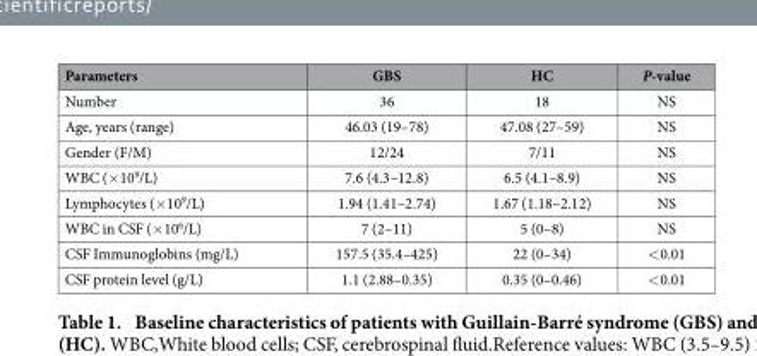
<table><thead><tr><td>Parameters</td><td>GBS</td><td>HC</td><td>P-value</td></tr></thead><tbody><tr><td>Number</td><td>36</td><td>18</td><td>NS</td></tr><tr><td>Age, years (range)</td><td>46.03 (19–78)</td><td>47.08 (27–59)</td><td>NS</td></tr><tr><td>Gender (F/M)</td><td>12/24</td><td>7/11</td><td>NS</td></tr><tr><td>WBC (×10<sup>9</sup>/L)</td><td>7.6 (4.3–12.8)</td><td>6.5 (4.1–8.9)</td><td>NS</td></tr><tr><td>Lymphocytes (×10<sup>9</sup>/L)</td><td>1.94 (1.41–2.74)</td><td>1.67 (1.18–2.12)</td><td>NS</td></tr><tr><td>WBC in CSF (×10<sup>6</sup>/L)</td><td>7 (2–11)</td><td>5 (0–8)</td><td>NS</td></tr><tr><td>CSF Immunoglobins (mg/L)</td><td>157.5 (35.4–425)</td><td>22 (0–34)</td><td>&lt; 0.01</td></tr><tr><td>CSF protein level (g/L)</td><td>1.1 (2.88–0.35)</td><td>0.35 (0–0.46)</td><td>&lt; 0.01</td></tr></tbody></table>